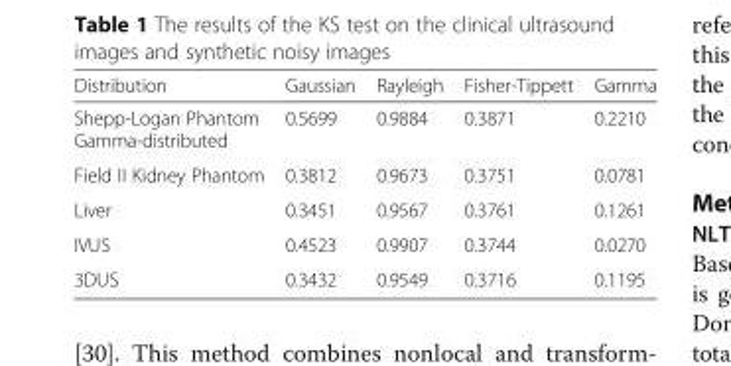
<table><thead><tr><td>Distribution</td><td>Gaussian</td><td>Rayleigh</td><td>Fisher-Tippett</td><td>Gamma</td></tr></thead><tbody><tr><td>Shepp-Logan Phantom Gamma-distributed</td><td>0.5699</td><td>0.9884</td><td>0.3871</td><td>0.2210</td></tr><tr><td>Field II Kidney Phantom</td><td>0.3812</td><td>0.9673</td><td>0.3751</td><td>0.0781</td></tr><tr><td>Liver</td><td>0.3451</td><td>0.9567</td><td>0.3761</td><td>0.1261</td></tr><tr><td>IVUS</td><td>0.4523</td><td>0.9907</td><td>0.3744</td><td>0.0270</td></tr><tr><td>3DUS</td><td>0.3432</td><td>0.9549</td><td>0.3716</td><td>0.1195</td></tr></tbody></table>